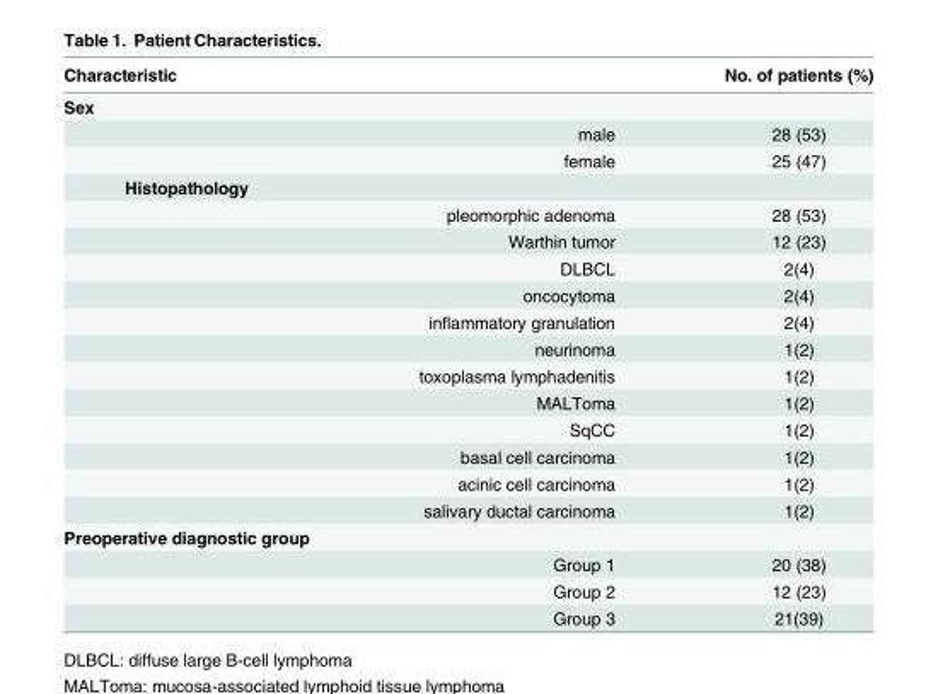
<table><thead><tr><td>Characteristic</td><td></td><td>No. of patients (%)</td></tr></thead><tbody><tr><td colspan="3">Sex</td></tr><tr><td></td><td>male</td><td>28 (53)</td></tr><tr><td></td><td>female</td><td>25 (47)</td></tr><tr><td colspan="3">Histopathology</td></tr><tr><td></td><td>pleomorphic adenoma</td><td>28 (53)</td></tr><tr><td></td><td>Warthin tumor</td><td>12 (23)</td></tr><tr><td></td><td>DLBCL</td><td>2(4)</td></tr><tr><td></td><td>oncocytoma</td><td>2(4)</td></tr><tr><td></td><td>inflammatory granulation</td><td>2(4)</td></tr><tr><td></td><td>neurinoma</td><td>1(2)</td></tr><tr><td></td><td>toxoplasma lymphadenitis</td><td>1(2)</td></tr><tr><td></td><td>MALToma</td><td>1(2)</td></tr><tr><td></td><td>SqCC</td><td>1(2)</td></tr><tr><td></td><td>basal cell carcinoma</td><td>1(2)</td></tr><tr><td></td><td>acinic cell carcinoma</td><td>1(2)</td></tr><tr><td></td><td>salivary ductal carcinoma</td><td>1(2)</td></tr><tr><td colspan="3">Preoperative diagnostic group</td></tr><tr><td></td><td>Group 1</td><td>20 (38)</td></tr><tr><td></td><td>Group 2</td><td>12 (23)</td></tr><tr><td></td><td>Group 3</td><td>21(39)</td></tr></tbody></table>